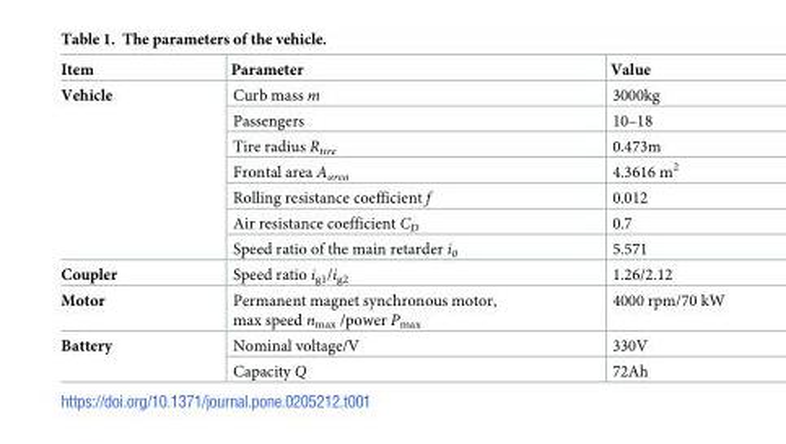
<table><thead><tr><td>Item</td><td>Parameter</td><td>Value</td></tr></thead><tbody><tr><td rowspan="7">Vehicle</td><td>Curb mass m</td><td>3000kg</td></tr><tr><td>Passengers</td><td>10–18</td></tr><tr><td>Tire radius R<sub>tire</sub></td><td>0.473m</td></tr><tr><td>Frontal area A<sub>area</sub></td><td>4.3616 m<sup>2</sup></td></tr><tr><td>Rolling resistance coefficient f</td><td>0.012</td></tr><tr><td>Air resistance coefficient C<sub>D</sub></td><td>0.7</td></tr><tr><td>Speed ratio of the main retarder i<sub>0</sub></td><td>5.571</td></tr><tr><td>Coupler</td><td>Speed ratio i<sub>g1</sub>/i<sub>g2</sub></td><td>1.26/2.12</td></tr><tr><td>Motor</td><td>Permanent magnet synchronous motor, max speed n<sub>max</sub> /power P<sub>max</sub></td><td>4000 rpm/70 kW</td></tr><tr><td rowspan="2">Battery</td><td>Nominal voltage/V</td><td>330V</td></tr><tr><td>Capacity Q</td><td>72Ah</td></tr></tbody></table>